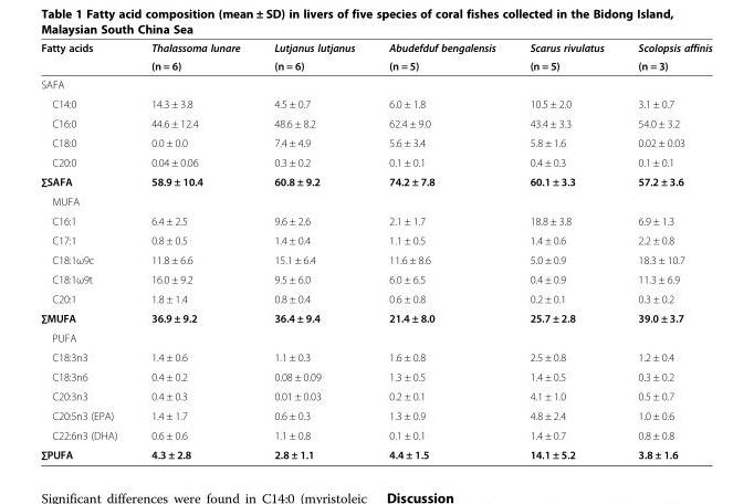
<table><thead><tr><td rowspan="2">Fatty acids</td><td rowspan="2">Thalassoma lunare (n = 6)</td><td rowspan="2">Lutjanus lutjanus (n = 6)</td><td rowspan="2">Abudefduf bengalensis (n = 5)</td><td rowspan="2">Scarus rivulatus (n = 5)</td><td rowspan="2">Scolopsis affinis (n = 3)</td></tr><tr></tr></thead><tbody><tr><td colspan="6">SAFA</td></tr><tr><td>C14:0</td><td>14.3 ± 3.8</td><td>4.5 ± 0.7</td><td>6.0 ± 1.8</td><td>10.5 ± 2.0</td><td>3.1 ± 0.7</td></tr><tr><td>C16:0</td><td>44.6 ± 12.4</td><td>48.6 ± 8.2</td><td>62.4 ± 9.0</td><td>43.4 ± 3.3</td><td>54.0 ± 3.2</td></tr><tr><td>C18:0</td><td>0.0 ± 0.0</td><td>7.4 ± 4.9</td><td>5.6 ± 3.4</td><td>5.8 ± 1.6</td><td>0.02 ± 0.03</td></tr><tr><td>C20:0</td><td>0.04 ± 0.06</td><td>0.3 ± 0.2</td><td>0.1 ± 0.1</td><td>0.4 ± 0.3</td><td>0.1 ± 0.1</td></tr><tr><td>∑SAFA</td><td>58.9 ± 10.4</td><td>60.8 ± 9.2</td><td>74.2 ± 7.8</td><td>60.1 ± 3.3</td><td>57.2 ± 3.6</td></tr><tr><td colspan="6">MUFA</td></tr><tr><td>C16:1</td><td>6.4 ± 2.5</td><td>9.6 ± 2.6</td><td>2.1 ± 1.7</td><td>18.8 ± 3.8</td><td>6.9 ± 1.3</td></tr><tr><td>C17:1</td><td>0.8 ± 0.5</td><td>1.4 ± 0.4</td><td>1.1 ± 0.5</td><td>1.4 ± 0.6</td><td>2.2 ± 0.8</td></tr><tr><td>C18:1ω9c</td><td>11.8 ± 6.6</td><td>15.1 ± 6.4</td><td>11.6 ± 8.6</td><td>5.0 ± 0.9</td><td>18.3 ± 10.7</td></tr><tr><td>C18:1ω9t</td><td>16.0 ± 9.2</td><td>9.5 ± 6.0</td><td>6.0 ± 6.5</td><td>0.4 ± 0.9</td><td>11.3 ± 6.9</td></tr><tr><td>C20:1</td><td>1.8 ± 1.4</td><td>0.8 ± 0.4</td><td>0.6 ± 0.8</td><td>0.2 ± 0.1</td><td>0.3 ± 0.2</td></tr><tr><td>∑MUFA</td><td>36.9 ± 9.2</td><td>36.4 ± 9.4</td><td>21.4 ± 8.0</td><td>25.7 ± 2.8</td><td>39.0 ± 3.7</td></tr><tr><td colspan="6">PUFA</td></tr><tr><td>C18:3n3</td><td>1.4 ± 0.6</td><td>1.1 ± 0.3</td><td>1.6 ± 0.8</td><td>2.5 ± 0.8</td><td>1.2 ± 0.4</td></tr><tr><td>C18:3n6</td><td>0.4 ± 0.2</td><td>0.08 ± 0.09</td><td>1.3 ± 0.5</td><td>1.4 ± 0.5</td><td>0.3 ± 0.2</td></tr><tr><td>C20:3n3</td><td>0.4 ± 0.3</td><td>0.01 ± 0.03</td><td>0.2 ± 0.1</td><td>4.1 ± 1.0</td><td>0.5 ± 0.7</td></tr><tr><td>C20:5n3 (EPA)</td><td>1.4 ± 1.7</td><td>0.6 ± 0.3</td><td>1.3 ± 0.9</td><td>4.8 ± 2.4</td><td>1.0 ± 0.6</td></tr><tr><td>C22:6n3 (DHA)</td><td>0.6 ± 0.6</td><td>1.1 ± 0.8</td><td>0.1 ± 0.1</td><td>1.4 ± 0.7</td><td>0.8 ± 0.8</td></tr><tr><td>∑PUFA</td><td>4.3 ± 2.8</td><td>2.8 ± 1.1</td><td>4.4 ± 1.5</td><td>14.1 ± 5.2</td><td>3.8 ± 1.6</td></tr></tbody></table>